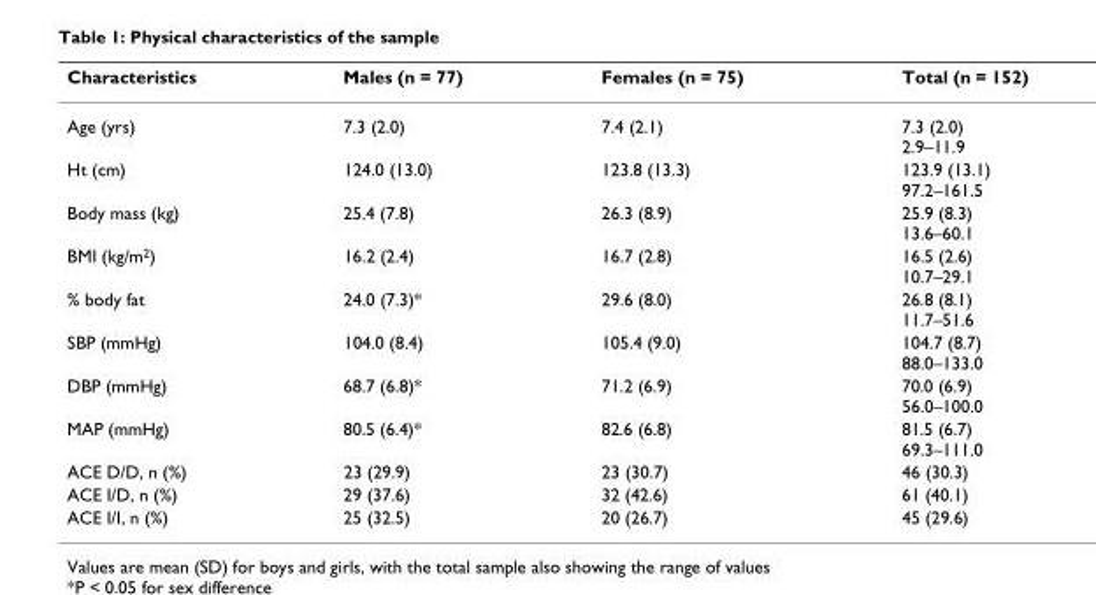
<table><thead><tr><td>Characteristics</td><td>Males (n = 77)</td><td>Females (n = 75)</td><td>Total (n = 152)</td></tr></thead><tbody><tr><td>Age (yrs)</td><td>7.3 (2.0)</td><td>7.4 (2.1)</td><td>7.3 (2.0) 2.9–11.9</td></tr><tr><td>Ht (cm)</td><td>124.0 (13.0)</td><td>123.8 (13.3)</td><td>123.9 (13.1) 97.2–161.5</td></tr><tr><td>Body mass (kg)</td><td>25.4 (7.8)</td><td>26.3 (8.9)</td><td>25.9 (8.3) 13.6–60.1</td></tr><tr><td>BMI (kg/m<sup>2</sup>)</td><td>16.2 (2.4)</td><td>16.7 (2.8)</td><td>16.5 (2.6) 10.7–29.1</td></tr><tr><td>% body fat</td><td>24.0 (7.3)*</td><td>29.6 (8.0)</td><td>26.8 (8.1) 11.7–51.6</td></tr><tr><td>SBP (mmHg)</td><td>104.0 (8.4)</td><td>105.4 (9.0)</td><td>104.7 (8.7) 88.0–133.0</td></tr><tr><td>DBP (mmHg)</td><td>68.7 (6.8)*</td><td>71.2 (6.9)</td><td>70.0 (6.9) 56.0–100.0</td></tr><tr><td>MAP (mmHg)</td><td>80.5 (6.4)*</td><td>82.6 (6.8)</td><td>81.5 (6.7) 69.3–111.0</td></tr><tr><td>ACE D/D, n (%)</td><td>23 (29.9)</td><td>23 (30.7)</td><td>46 (30.3)</td></tr><tr><td>ACE I/D, n (%)</td><td>29 (37.6)</td><td>32 (42.6)</td><td>61 (40.1)</td></tr><tr><td>ACE I/I, n (%)</td><td>25 (32.5)</td><td>20 (26.7)</td><td>45 (29.6)</td></tr></tbody></table>